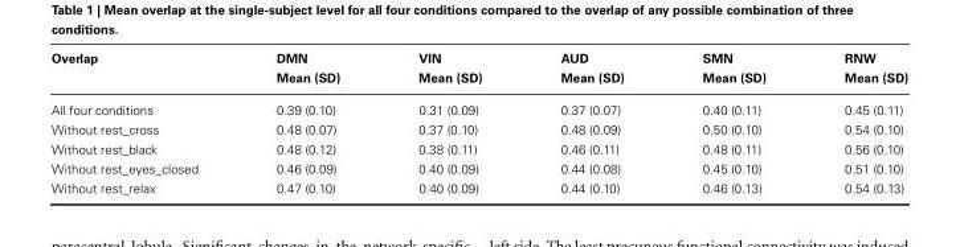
<table><thead><tr><td rowspan="2">Overlap</td><td rowspan="2">DMN Mean (SD)</td><td rowspan="2">VIN Mean (SD)</td><td rowspan="2">AUD Mean (SD)</td><td rowspan="2">SMN Mean (SD)</td><td rowspan="2">RNW Mean (SD)</td></tr><tr></tr></thead><tbody><tr><td>All four conditions</td><td>0.39 (0.10)</td><td>0.31 (0.09)</td><td>0.37 (0.07)</td><td>0.40 (0.11)</td><td>0.45 (0.11)</td></tr><tr><td>Without rest_cross</td><td>0.48 (0.07)</td><td>0.37 (0.10)</td><td>0.48 (0.09)</td><td>0.50 (0.10)</td><td>0.54 (0.10)</td></tr><tr><td>Without rest_black</td><td>0.48 (0.12)</td><td>0.38 (0.11)</td><td>0.46 (0.11)</td><td>0.48 (0.11)</td><td>0.56 (0.10)</td></tr><tr><td>Without rest_eyes_closed</td><td>0.46 (0.09)</td><td>0.40 (0.09)</td><td>0.44 (0.08)</td><td>0.45 (0.10)</td><td>0.51 (0.10)</td></tr><tr><td>Without rest_relax</td><td>0.47 (0.10)</td><td>0.40 (0.09)</td><td>0.44 (0.10)</td><td>0.46 (0.13)</td><td>0.54 (0.13)</td></tr></tbody></table>